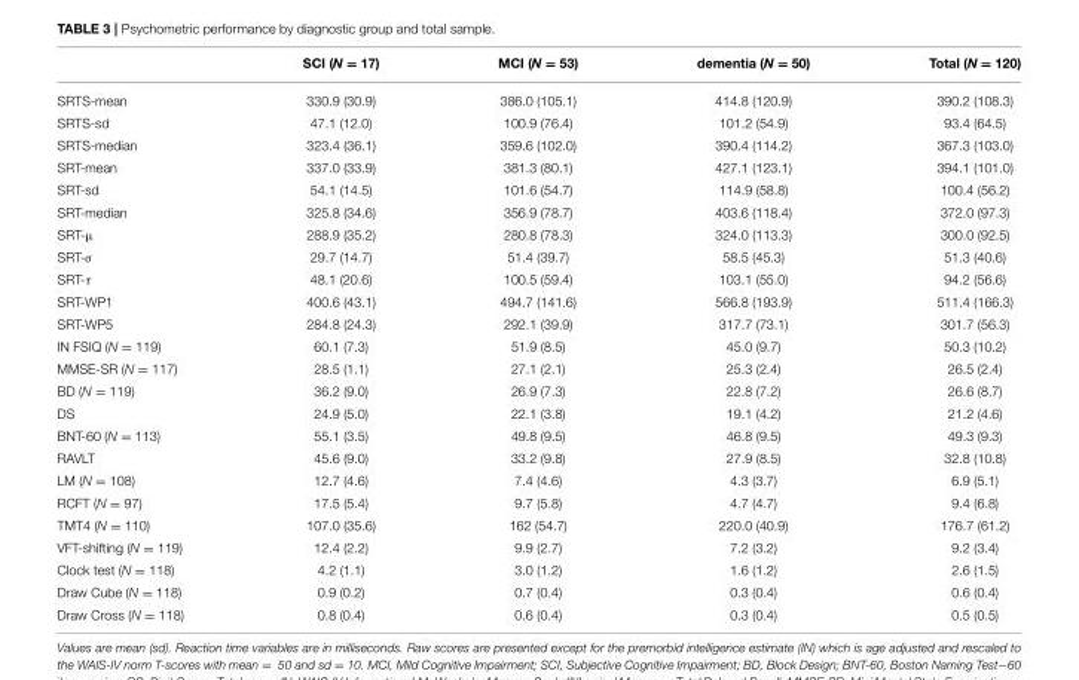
<table><thead><tr><td></td><td>SCI (N = 17)</td><td>MCI (N = 53)</td><td>dementia (N = 50)</td><td>Total (N = 120)</td></tr></thead><tbody><tr><td>SRTS-mean</td><td>330.9 (30.9)</td><td>386.0 (105.1)</td><td>414.8 (120.9)</td><td>390.2 (108.3)</td></tr><tr><td>SRTS-sd</td><td>47.1 (12.0)</td><td>100.9 (76.4)</td><td>101.2 (54.9)</td><td>93.4 (64.5)</td></tr><tr><td>SRTS-median</td><td>323.4 (36.1)</td><td>359.6 (102.0)</td><td>390.4 (114.2)</td><td>367.3 (103.0)</td></tr><tr><td>SRT-mean</td><td>337.0 (33.9)</td><td>381.3 (80.1)</td><td>427.1 (123.1)</td><td>394.1 (101.0)</td></tr><tr><td>SRT-sd</td><td>54.1 (14.5)</td><td>101.6 (54.7)</td><td>114.9 (58.8)</td><td>100.4 (56.2)</td></tr><tr><td>SRT-median</td><td>325.8 (34.6)</td><td>356.9 (78.7)</td><td>403.6 (118.4)</td><td>372.0 (97.3)</td></tr><tr><td>SRT-µ</td><td>288.9 (35.2)</td><td>280.8 (78.3)</td><td>324.0 (113.3)</td><td>300.0 (92.5)</td></tr><tr><td>SRT-σ</td><td>29.7 (14.7)</td><td>51.4 (39.7)</td><td>58.5 (45.3)</td><td>51.3 (40.6)</td></tr><tr><td>SRT-τ</td><td>48.1 (20.6)</td><td>100.5 (59.4)</td><td>103.1 (55.0)</td><td>94.2 (56.6)</td></tr><tr><td>SRT-WP1</td><td>400.6 (43.1)</td><td>494.7 (141.6)</td><td>566.8 (193.9)</td><td>511.4 (166.3)</td></tr><tr><td>SRT-WP5</td><td>284.8 (24.3)</td><td>292.1 (39.9)</td><td>317.7 (73.1)</td><td>301.7 (56.3)</td></tr><tr><td>IN FSIQ (N = 119)</td><td>60.1 (7.3)</td><td>51.9 (8.5)</td><td>45.0 (9.7)</td><td>50.3 (10.2)</td></tr><tr><td>MMSE-SR (N = 117)</td><td>28.5 (1.1)</td><td>27.1 (2.1)</td><td>25.3 (2.4)</td><td>26.5 (2.4)</td></tr><tr><td>BD (N = 119)</td><td>36.2 (9.0)</td><td>26.9 (7.3)</td><td>22.8 (7.2)</td><td>26.6 (8.7)</td></tr><tr><td>DS</td><td>24.9 (5.0)</td><td>22.1 (3.8)</td><td>19.1 (4.2)</td><td>21.2 (4.6)</td></tr><tr><td>BNT-60 (N = 113)</td><td>55.1 (3.5)</td><td>49.8 (9.5)</td><td>46.8 (9.5)</td><td>49.3 (9.3)</td></tr><tr><td>RAVLT</td><td>45.6 (9.0)</td><td>33.2 (9.8)</td><td>27.9 (8.5)</td><td>32.8 (10.8)</td></tr><tr><td>LM (N = 108)</td><td>12.7 (4.6)</td><td>7.4 (4.6)</td><td>4.3 (3.7)</td><td>6.9 (5.1)</td></tr><tr><td>RCFT (N = 97)</td><td>17.5 (5.4)</td><td>9.7 (5.8)</td><td>4.7 (4.7)</td><td>9.4 (6.8)</td></tr><tr><td>TMT4 (N = 110)</td><td>107.0 (35.6)</td><td>162 (54.7)</td><td>220.0 (40.9)</td><td>176.7 (61.2)</td></tr><tr><td>VFT-shifting (N = 119)</td><td>12.4 (2.2)</td><td>9.9 (2.7)</td><td>7.2 (3.2)</td><td>9.2 (3.4)</td></tr><tr><td>Clock test (N = 118)</td><td>4.2 (1.1)</td><td>3.0 (1.2)</td><td>1.6 (1.2)</td><td>2.6 (1.5)</td></tr><tr><td>Draw Cube (N = 118)</td><td>0.9 (0.2)</td><td>0.7 (0.4)</td><td>0.3 (0.4)</td><td>0.6 (0.4)</td></tr><tr><td>Draw Cross (N = 118)</td><td>0.8 (0.4)</td><td>0.6 (0.4)</td><td>0.3 (0.4)</td><td>0.5 (0.5)</td></tr></tbody></table>